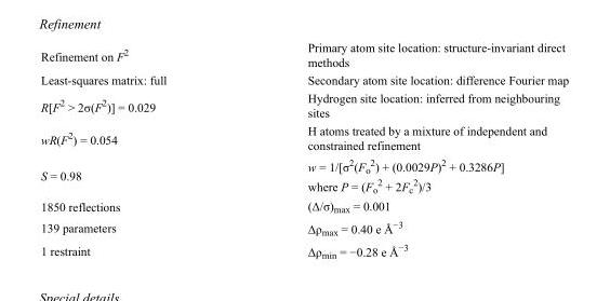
<table><tbody><tr><td>Refinement on F<sup>2</sup></td><td>Primary atom site location: structure-invariant direct methods</td></tr><tr><td>Least-squares matrix: full</td><td>Secondary atom site location: difference Fourier map</td></tr><tr><td>R[F<sup>2</sup> &gt; 2σ(F<sup>2</sup>)] = 0.029</td><td>Hydrogen site location: inferred from neighbouring sites</td></tr><tr><td>wR(F<sup>2</sup>) = 0.054</td><td>H atoms treated by a mixture of independent and constrained refinement</td></tr><tr><td>S = 0.98</td><td>w = 1/[σ<sup>2</sup>(F<sub>o</sub> <sup>2</sup>) + (0.0029P)<sup>2</sup> + 0.3286P] where P = (F<sub>o</sub> <sup>2</sup> + 2F<sub>c</sub> <sup>2</sup>)/3</td></tr><tr><td>1850 reflections</td><td>(Δ/σ)<sub>max</sub> = 0.001</td></tr><tr><td>139 parameters</td><td>Δρ<sub>max</sub> = 0.40 e Å<sup>−3</sup></td></tr><tr><td>1 restraint</td><td>Δρ<sub>min</sub> = −0.28 e Å<sup>−3</sup></td></tr></tbody></table>